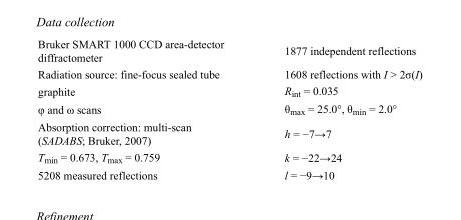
<table><tbody><tr><td>Bruker SMART 1000 CCD area-detector diffractometer</td><td>1877 independent reflections</td></tr><tr><td>Radiation source: fine-focus sealed tube</td><td>1608 reflections with I &gt; 2σ(I)</td></tr><tr><td>graphite</td><td>R<sub>int</sub> = 0.035</td></tr><tr><td>φ and ω scans</td><td>θ<sub>max</sub> = 25.0°, θ<sub>min</sub> = 2.0°</td></tr><tr><td>Absorption correction: multi-scan (SADABS; Bruker, 2007)</td><td>h = −7→7</td></tr><tr><td>T<sub>min</sub> = 0.673, T<sub>max</sub> = 0.759</td><td>k = −22→24</td></tr><tr><td>5208 measured reflections</td><td>l = −9→10</td></tr></tbody></table>